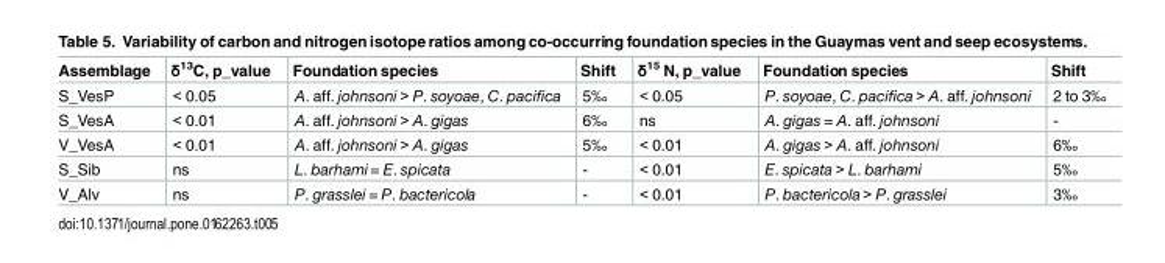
<table><thead><tr><td>Assemblage</td><td>δ<sup>13</sup>C, p_value</td><td>Foundation species</td><td>Shift</td><td>δ<sup>15</sup> N, p_value</td><td>Foundation species</td><td>Shift</td></tr></thead><tbody><tr><td>S_VesP</td><td>&lt; 0.05</td><td>A. aff. johnsoni &gt; P. soyoae, C. pacifica</td><td>5‰</td><td>&lt; 0.05</td><td>P. soyoae, C. pacifica &gt; A. aff. johnsoni</td><td>2 to 3‰</td></tr><tr><td>S_VesA</td><td>&lt; 0.01</td><td>A. aff. johnsoni &gt; A. gigas</td><td>6‰</td><td>ns</td><td>A. gigas = A. aff. johnsoni</td><td>-</td></tr><tr><td>V_VesA</td><td>&lt; 0.01</td><td>A. aff. johnsoni &gt; A. gigas</td><td>5‰</td><td>&lt; 0.01</td><td>A. gigas &gt; A. aff. johnsoni</td><td>6‰</td></tr><tr><td>S_Sib</td><td>ns</td><td>L. barhami= E. spicata</td><td>-</td><td>&lt; 0.01</td><td>E. spicata &gt; L. barhami</td><td>5‰</td></tr><tr><td>V_Alv</td><td>ns</td><td>P. grasslei = P. bactericola</td><td>-</td><td>&lt; 0.01</td><td>P. bactericola &gt; P. grasslei</td><td>3‰</td></tr></tbody></table>